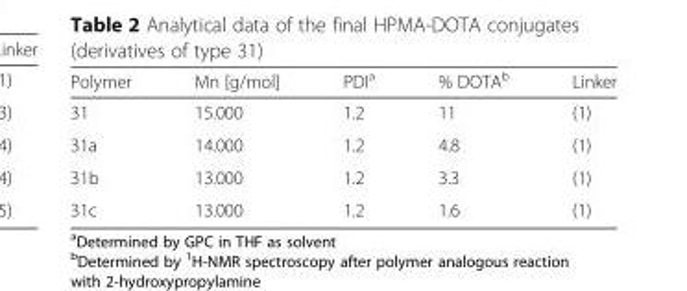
<table><thead><tr><td>Polymer</td><td>Mn [g/mol]</td><td>PDI<sup>a</sup></td><td>% DOTA<sup>b</sup></td><td>Linker</td></tr></thead><tbody><tr><td>31</td><td>15.000</td><td>1.2</td><td>11</td><td>(1)</td></tr><tr><td>31a</td><td>14.000</td><td>1.2</td><td>4.8</td><td>(1)</td></tr><tr><td>31b</td><td>13.000</td><td>1.2</td><td>3.3</td><td>(1)</td></tr><tr><td>31c</td><td>13.000</td><td>1.2</td><td>1.6</td><td>(1)</td></tr></tbody></table>